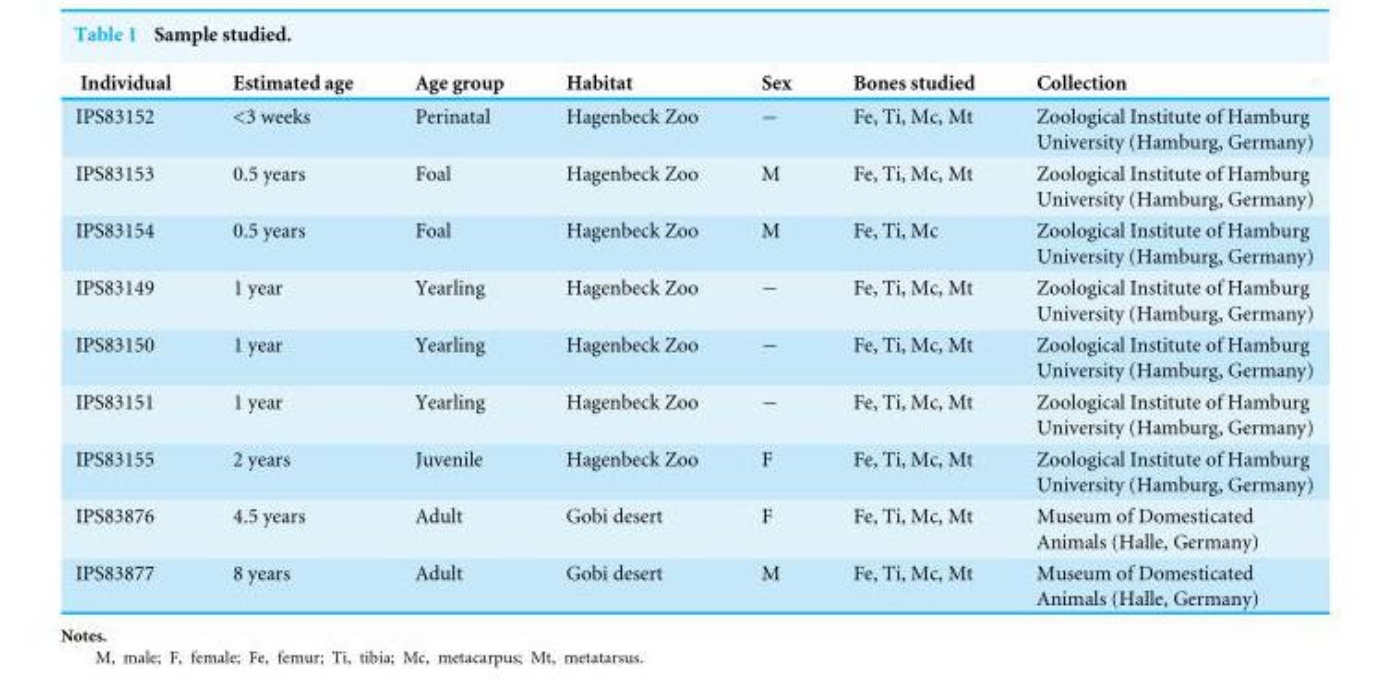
<table><thead><tr><td>Individual</td><td>Estimated age</td><td>Age group</td><td>Habitat</td><td>Sex</td><td>Bones studied</td><td>Collection</td></tr></thead><tbody><tr><td>;IPS83152</td><td>&lt;3 weeks</td><td>Perinatal</td><td>Hagenbeck Zoo</td><td>−</td><td>Fe, Ti, Mc, Mt</td><td>Zoological Institute of Hamburg University (Hamburg, Germany)</td></tr><tr><td>IPS83153</td><td>0.5 years</td><td>Foal</td><td>Hagenbeck Zoo</td><td>M</td><td>Fe, Ti, Mc, Mt</td><td>Zoological Institute of Hamburg University (Hamburg, Germany)</td></tr><tr><td>IPS83154</td><td>0.5 years</td><td>Foal</td><td>Hagenbeck Zoo</td><td>M</td><td>Fe, Ti, Mc</td><td>Zoological Institute of Hamburg University (Hamburg, Germany)</td></tr><tr><td>IPS83149</td><td>1 year</td><td>Yearling</td><td>Hagenbeck Zoo</td><td>−</td><td>Fe, Ti, Mc, Mt</td><td>Zoological Institute of Hamburg University (Hamburg, Germany)</td></tr><tr><td>IPS83150</td><td>1 year</td><td>Yearling</td><td>Hagenbeck Zoo</td><td>−</td><td>Fe, Ti, Mc, Mt</td><td>Zoological Institute of Hamburg University (Hamburg, Germany)</td></tr><tr><td>IPS83151</td><td>1 year</td><td>Yearling</td><td>Hagenbeck Zoo</td><td>−</td><td>Fe, Ti, Mc, Mt</td><td>Zoological Institute of Hamburg University (Hamburg, Germany)</td></tr><tr><td>IPS83155</td><td>2 years</td><td>Juvenile</td><td>Hagenbeck Zoo</td><td>F</td><td>Fe, Ti, Mc, Mt</td><td>Zoological Institute of Hamburg University (Hamburg, Germany)</td></tr><tr><td>IPS83876</td><td>4.5 years</td><td>Adult</td><td>Gobi desert</td><td>F</td><td>Fe, Ti, Mc, Mt</td><td>Museum of Domesticated Animals (Halle, Germany)</td></tr><tr><td>IPS83877</td><td>8 years</td><td>Adult</td><td>Gobi desert</td><td>M</td><td>Fe, Ti, Mc, Mt</td><td>Museum of Domesticated Animals (Halle, Germany)</td></tr></tbody></table>